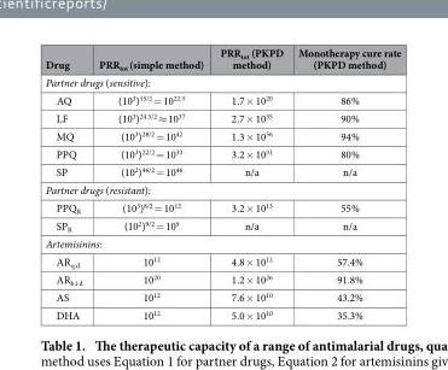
<table><thead><tr><td>Drug</td><td>PRR<sub>tot</sub> (simple method)</td><td>PRR<sub>tot</sub> (PKPD method)</td><td>Monotherapy cure rate (PKPD method)</td></tr></thead><tbody><tr><td colspan="4">Partner drugs (sensitive):</td></tr><tr><td>AQ</td><td>(10<sup>3</sup>)<sup>15/2</sup> = 10<sup>22.5</sup></td><td>1.7 × 10<sup>20</sup></td><td>86%</td></tr><tr><td>LF</td><td>(10<sup>3</sup>)<sup>24.5/2</sup> ≈ 10<sup>37</sup></td><td>2.7 × 10<sup>35</sup></td><td>90%</td></tr><tr><td>MQ</td><td>(10<sup>3</sup>)<sup>28/2</sup> = 10<sup>42</sup></td><td>1.3 × 10<sup>56</sup></td><td>94%</td></tr><tr><td>PPQ</td><td>(10<sup>3</sup>)<sup>22/2</sup> = 10<sup>33</sup></td><td>3.2 × 10<sup>31</sup></td><td>80%</td></tr><tr><td>SP</td><td>(10<sup>2</sup>)<sup>46/2</sup> = 10<sup>46</sup></td><td>n/a</td><td>n/a</td></tr><tr><td colspan="4">Partner drugs (resistant):</td></tr><tr><td>PPQ<sub>R</sub></td><td>(10<sup>3</sup>)<sup>8/2</sup> = 10<sup>12</sup></td><td>3.2 × 10<sup>13</sup></td><td>55%</td></tr><tr><td>SP<sub>R</sub></td><td>(10<sup>2</sup>)<sup>9/2</sup> = 10<sup>9</sup></td><td>n/a</td><td>n/a</td></tr><tr><td colspan="4">Artemisinins:</td></tr><tr><td>AR<sub>q.d.</sub></td><td>10<sup>12</sup></td><td>4.8 × 10<sup>12</sup></td><td>57.4%</td></tr><tr><td>AR<sub>b.i.d</sub></td><td>10<sup>20</sup></td><td>1.2 × 10<sup>26</sup></td><td>91.8%</td></tr><tr><td>AS</td><td>10<sup>12</sup></td><td>7.6 × 10<sup>10</sup></td><td>43.2%</td></tr><tr><td>DHA</td><td>10<sup>12</sup></td><td>5.0 × 10<sup>10</sup></td><td>35.3%</td></tr></tbody></table>